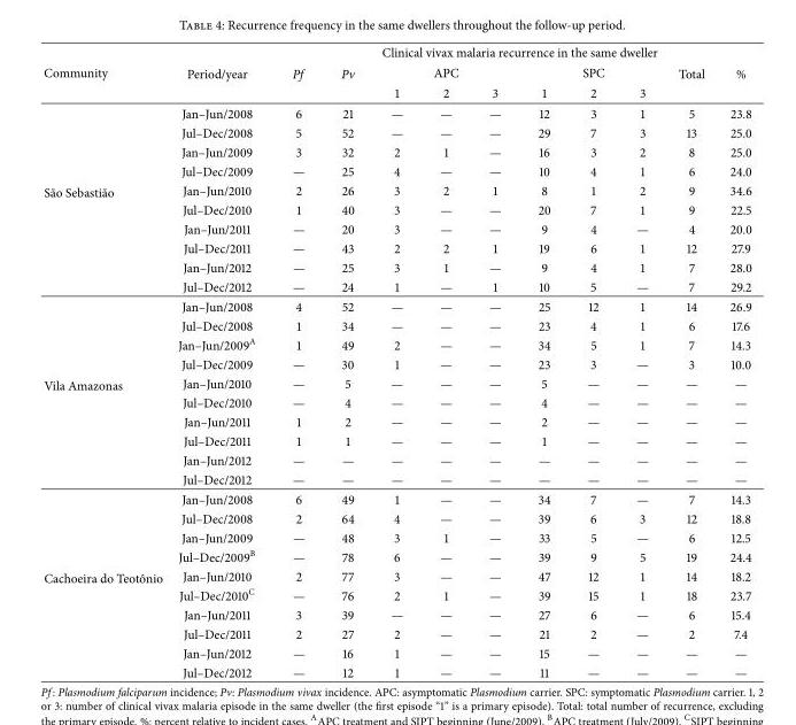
<table><thead><tr><td rowspan="3">Community</td><td rowspan="3">Period/year</td><td rowspan="3">Pf</td><td rowspan="3">Pv</td><td colspan="6">Clinical vivax malaria recurrence in the same dweller</td><td rowspan="3">Total</td><td rowspan="3">%</td></tr><tr><td colspan="3">APC</td><td colspan="3">SPC</td></tr><tr><td>1</td><td>2</td><td>3</td><td>1</td><td>2</td><td>3</td></tr></thead><tbody><tr><td rowspan="10">S˜ao Sebasti˜ao</td><td>Jan–Jun/2008</td><td>6</td><td>21</td><td>—</td><td>—</td><td>—</td><td>12</td><td>3</td><td>1</td><td>5</td><td>23.8</td></tr><tr><td>Jul–Dec/2008</td><td>5</td><td>52</td><td>—</td><td>—</td><td>—</td><td>29</td><td>7</td><td>3</td><td>13</td><td>25.0</td></tr><tr><td>Jan–Jun/2009</td><td>3</td><td>32</td><td>2</td><td>1</td><td>—</td><td>16</td><td>3</td><td>2</td><td>8</td><td>25.0</td></tr><tr><td>Jul–Dec/2009</td><td>—</td><td>25</td><td>4</td><td>—</td><td>—</td><td>10</td><td>4</td><td>1</td><td>6</td><td>24.0</td></tr><tr><td>Jan–Jun/2010</td><td>2</td><td>26</td><td>3</td><td>2</td><td>1</td><td>8</td><td>1</td><td>2</td><td>9</td><td>34.6</td></tr><tr><td>Jul–Dec/2010</td><td>1</td><td>40</td><td>3</td><td>—</td><td>—</td><td>20</td><td>7</td><td>1</td><td>9</td><td>22.5</td></tr><tr><td>Jan–Jun/2011</td><td>—</td><td>20</td><td>3</td><td>—</td><td>—</td><td>9</td><td>4</td><td>—</td><td>4</td><td>20.0</td></tr><tr><td>Jul–Dec/2011</td><td>—</td><td>43</td><td>2</td><td>2</td><td>1</td><td>19</td><td>6</td><td>1</td><td>12</td><td>27.9</td></tr><tr><td>Jan–Jun/2012</td><td>—</td><td>25</td><td>3</td><td>1</td><td>—</td><td>9</td><td>4</td><td>1</td><td>7</td><td>28.0</td></tr><tr><td>Jul–Dec/2012</td><td>—</td><td>24</td><td>1</td><td>—</td><td>1</td><td>10</td><td>5</td><td>—</td><td>7</td><td>29.2</td></tr><tr><td rowspan="10">Vila Amazonas</td><td>Jan–Jun/2008</td><td>4</td><td>52</td><td>—</td><td>—</td><td>—</td><td>25</td><td>12</td><td>1</td><td>14</td><td>26.9</td></tr><tr><td>Jul–Dec/2008</td><td>1</td><td>34</td><td>—</td><td>—</td><td>—</td><td>23</td><td>4</td><td>1</td><td>6</td><td>17.6</td></tr><tr><td>Jan–Jun/2009<sup>A</sup></td><td>1</td><td>49</td><td>2</td><td>—</td><td>—</td><td>34</td><td>5</td><td>1</td><td>7</td><td>14.3</td></tr><tr><td>Jul–Dec/2009</td><td>—</td><td>30</td><td>1</td><td>—</td><td>—</td><td>23</td><td>3</td><td>—</td><td>3</td><td>10.0</td></tr><tr><td>Jan–Jun/2010</td><td>—</td><td>5</td><td>—</td><td>—</td><td>—</td><td>5</td><td>—</td><td>—</td><td>—</td><td>—</td></tr><tr><td>Jul–Dec/2010</td><td>—</td><td>4</td><td>—</td><td>—</td><td>—</td><td>4</td><td>—</td><td>—</td><td>—</td><td>—</td></tr><tr><td>Jan–Jun/2011</td><td>1</td><td>2</td><td>—</td><td>—</td><td>—</td><td>2</td><td>—</td><td>—</td><td>—</td><td>—</td></tr><tr><td>Jul–Dec/2011</td><td>1</td><td>1</td><td>—</td><td>—</td><td>—</td><td>1</td><td>—</td><td>—</td><td>—</td><td>—</td></tr><tr><td>Jan–Jun/2012</td><td>—</td><td>—</td><td>—</td><td>—</td><td>—</td><td>—</td><td>—</td><td>—</td><td>—</td><td>—</td></tr><tr><td>Jul–Dec/2012</td><td>—</td><td>—</td><td>—</td><td>—</td><td>—</td><td>—</td><td>—</td><td>—</td><td>—</td><td>—</td></tr><tr><td rowspan="10">Cachoeira do Teotˆonio</td><td>Jan–Jun/2008</td><td>6</td><td>49</td><td>1</td><td>—</td><td>—</td><td>34</td><td>7</td><td>—</td><td>7</td><td>14.3</td></tr><tr><td>Jul–Dec/2008</td><td>2</td><td>64</td><td>4</td><td>—</td><td>—</td><td>39</td><td>6</td><td>3</td><td>12</td><td>18.8</td></tr><tr><td>Jan–Jun/2009</td><td>—</td><td>48</td><td>3</td><td>1</td><td>—</td><td>33</td><td>5</td><td>—</td><td>6</td><td>12.5</td></tr><tr><td>Jul–Dec/2009<sup>B</sup></td><td>—</td><td>78</td><td>6</td><td>—</td><td>—</td><td>39</td><td>9</td><td>5</td><td>19</td><td>24.4</td></tr><tr><td>Jan–Jun/2010</td><td>2</td><td>77</td><td>3</td><td>—</td><td>—</td><td>47</td><td>12</td><td>1</td><td>14</td><td>18.2</td></tr><tr><td>Jul–Dec/2010<sup>C</sup></td><td>—</td><td>76</td><td>2</td><td>1</td><td>—</td><td>39</td><td>15</td><td>1</td><td>18</td><td>23.7</td></tr><tr><td>Jan–Jun/2011</td><td>3</td><td>39</td><td>—</td><td>—</td><td>—</td><td>27</td><td>6</td><td>—</td><td>6</td><td>15.4</td></tr><tr><td>Jul–Dec/2011</td><td>2</td><td>27</td><td>2</td><td>—</td><td>—</td><td>21</td><td>2</td><td>—</td><td>2</td><td>7.4</td></tr><tr><td>Jan–Jun/2012</td><td>—</td><td>16</td><td>1</td><td>—</td><td>—</td><td>15</td><td>—</td><td>—</td><td>—</td><td>—</td></tr><tr><td>Jul–Dec/2012</td><td>—</td><td>12</td><td>1</td><td>—</td><td>—</td><td>11</td><td>—</td><td>—</td><td>—</td><td>—</td></tr></tbody></table>